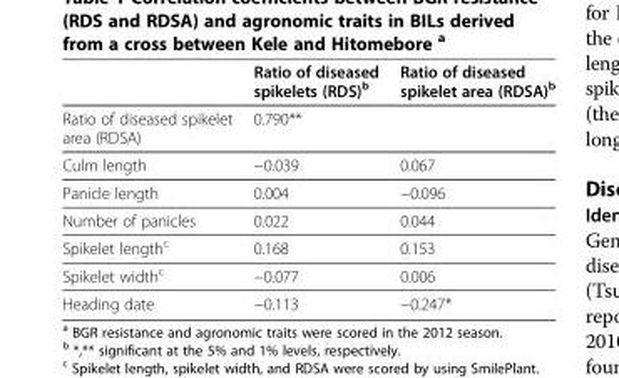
<table><thead><tr><td></td><td>Ratio of diseased spikelets (RDS)<sup>b</sup></td><td>Ratio of diseased spikelet area (RDSA)<sup>b</sup></td></tr></thead><tbody><tr><td>Ratio of diseased spikelet area (RDSA)</td><td>0.790**</td><td></td></tr><tr><td>Culm length</td><td>−0.039</td><td>0.067</td></tr><tr><td>Panicle length</td><td>0.004</td><td>−0.096</td></tr><tr><td>Number of panicles</td><td>0.022</td><td>0.044</td></tr><tr><td>Spikelet length<sup>c</sup></td><td>0.168</td><td>0.153</td></tr><tr><td>Spikelet width<sup>c</sup></td><td>−0.077</td><td>0.006</td></tr><tr><td>Heading date</td><td>−0.113</td><td>−0.247*</td></tr></tbody></table>